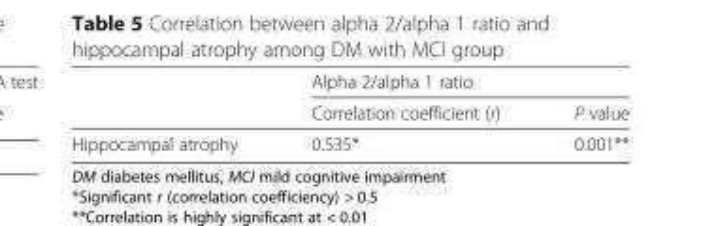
<table><thead><tr><td rowspan="2"></td><td colspan="2">Alpha 2/alpha 1 ratio</td></tr><tr><td>Correlation coefficient (r)</td><td>P value</td></tr></thead><tbody><tr><td>Hippocampal atrophy</td><td>0.535*</td><td>0.001**</td></tr></tbody></table>